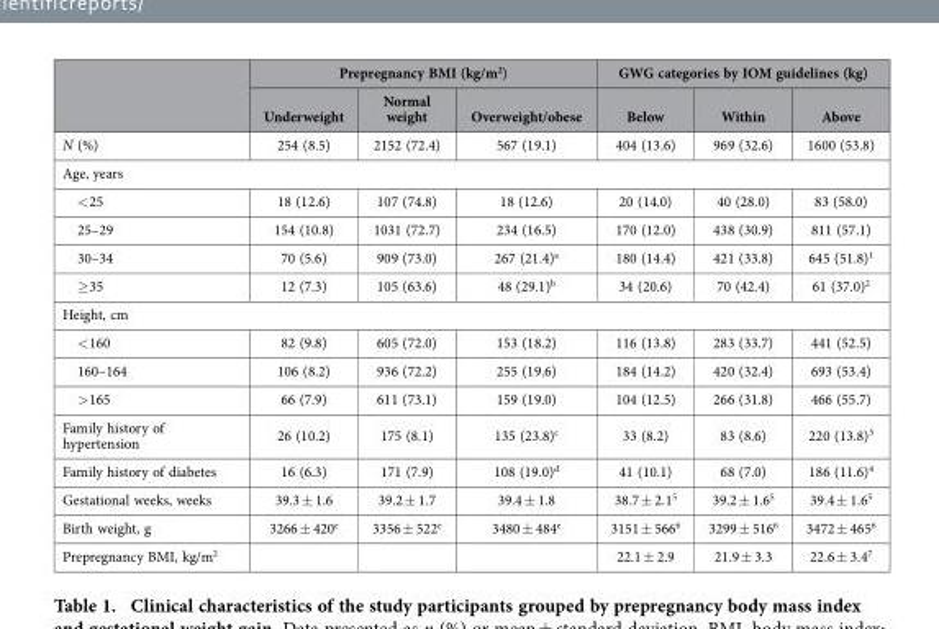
<table><thead><tr><td rowspan="2"></td><td colspan="3">Prepregnancy BMI (kg/m<sup>2</sup>)</td><td colspan="3">GWG categories by IOM guidelines (kg)</td></tr><tr><td>Underweight</td><td>Normal weight</td><td>Overweight/obese</td><td>Below</td><td>Within</td><td>Above</td></tr></thead><tbody><tr><td>N (%)</td><td>254 (8.5)</td><td>2152 (72.4)</td><td>567 (19.1)</td><td>404 (13.6)</td><td>969 (32.6)</td><td>1600 (53.8)</td></tr><tr><td colspan="7">Age, years</td></tr><tr><td>&lt; 25</td><td>18 (12.6)</td><td>107 (74.8)</td><td>18 (12.6)</td><td>20 (14.0)</td><td>40 (28.0)</td><td>83 (58.0)</td></tr><tr><td>25–29</td><td>154 (10.8)</td><td>1031 (72.7)</td><td>234 (16.5)</td><td>170 (12.0)</td><td>438 (30.9)</td><td>811 (57.1)</td></tr><tr><td>30–34</td><td>70 (5.6)</td><td>909 (73.0)</td><td>267 (21.4)<sup>a</sup></td><td>180 (14.4)</td><td>421 (33.8)</td><td>645 (51.8)<sup>1</sup></td></tr><tr><td>≥ 35</td><td>12 (7.3)</td><td>105 (63.6)</td><td>48 (29.1)<sup>b</sup></td><td>34 (20.6)</td><td>70 (42.4)</td><td>61 (37.0)<sup>2</sup></td></tr><tr><td colspan="7">Height, cm</td></tr><tr><td>&lt; 160</td><td>82 (9.8)</td><td>605 (72.0)</td><td>153 (18.2)</td><td>116 (13.8)</td><td>283 (33.7)</td><td>441 (52.5)</td></tr><tr><td>160–164</td><td>106 (8.2)</td><td>936 (72.2)</td><td>255 (19.6)</td><td>184 (14.2)</td><td>420 (32.4)</td><td>693 (53.4)</td></tr><tr><td>&gt; 165</td><td>66 (7.9)</td><td>611 (73.1)</td><td>159 (19.0)</td><td>104 (12.5)</td><td>266 (31.8)</td><td>466 (55.7)</td></tr><tr><td>Family history of hypertension</td><td>26 (10.2)</td><td>175 (8.1)</td><td>135 (23.8)<sup>c</sup></td><td>33 (8.2)</td><td>83 (8.6)</td><td>220 (13.8)<sup>3</sup></td></tr><tr><td>Family history of diabetes</td><td>16 (6.3)</td><td>171 (7.9)</td><td>108 (19.0)<sup>d</sup></td><td>41 (10.1)</td><td>68 (7.0)</td><td>186 (11.6)<sup>4</sup></td></tr><tr><td>Gestational weeks, weeks</td><td>39.3 ± 1.6</td><td>39.2 ± 1.7</td><td>39.4 ± 1.8</td><td>38.7 ± 2.1<sup>5</sup></td><td>39.2 ± 1.6<sup>5</sup></td><td>39.4 ± 1.6<sup>5</sup></td></tr><tr><td>Birth weight, g</td><td>3266 ± 420<sup>e</sup></td><td>3356 ± 522<sup>e</sup></td><td>3480 ± 484<sup>e</sup></td><td>3151 ± 566<sup>6</sup></td><td>3299 ± 516<sup>6</sup></td><td>3472 ± 465<sup>6</sup></td></tr><tr><td>Prepregnancy BMI, kg/m<sup>2</sup></td><td></td><td></td><td></td><td>22.1 ± 2.9</td><td>21.9 ± 3.3</td><td>22.6 ± 3.4<sup>7</sup></td></tr></tbody></table>